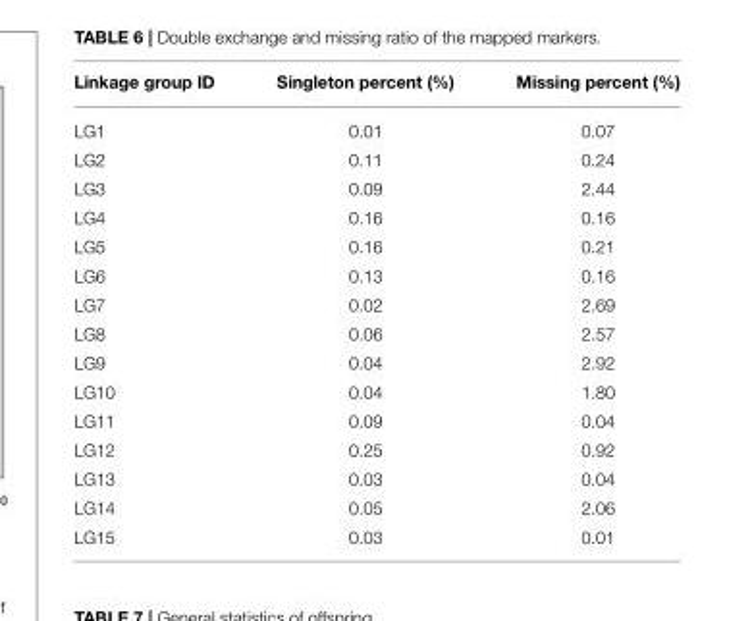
<table><thead><tr><td>Linkage group ID</td><td>Singleton percent (%)</td><td>Missing percent (%)</td></tr></thead><tbody><tr><td>LG1</td><td>0.01</td><td>0.07</td></tr><tr><td>LG2</td><td>0.11</td><td>0.24</td></tr><tr><td>LG3</td><td>0.09</td><td>2.44</td></tr><tr><td>LG4</td><td>0.16</td><td>0.16</td></tr><tr><td>LG5</td><td>0.16</td><td>0.21</td></tr><tr><td>LG6</td><td>0.13</td><td>0.16</td></tr><tr><td>LG7</td><td>0.02</td><td>2.69</td></tr><tr><td>LG8</td><td>0.06</td><td>2.57</td></tr><tr><td>LG9</td><td>0.04</td><td>2.92</td></tr><tr><td>LG10</td><td>0.04</td><td>1.80</td></tr><tr><td>LG11</td><td>0.09</td><td>0.04</td></tr><tr><td>LG12</td><td>0.25</td><td>0.92</td></tr><tr><td>LG13</td><td>0.03</td><td>0.04</td></tr><tr><td>LG14</td><td>0.05</td><td>2.06</td></tr><tr><td>LG15</td><td>0.03</td><td>0.01</td></tr></tbody></table>